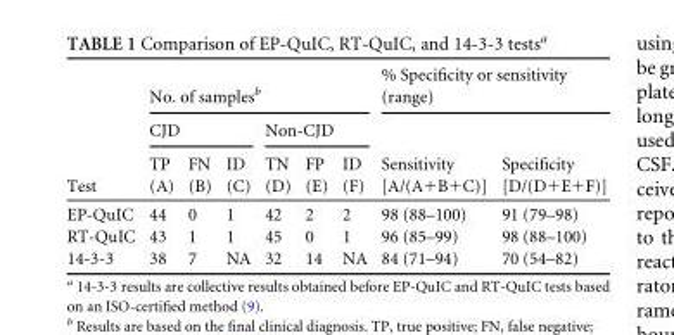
<table><thead><tr><td rowspan="3">Test</td><td colspan="6">No. of samples<sup>b</sup></td><td colspan="2">% Specificity or sensitivity (range)</td></tr><tr><td colspan="3">CJD</td><td colspan="3">Non-CJD</td><td rowspan="2">Sensitivity [A/(A+B+C)]</td><td rowspan="2">Specificity [D/(D+E+F)]</td></tr><tr><td>TP (A)</td><td>FN (B)</td><td>ID (C)</td><td>TN (D)</td><td>FP (E)</td><td>ID (F)</td></tr></thead><tbody><tr><td>EP-QuIC</td><td>44</td><td>0</td><td>1</td><td>42</td><td>2</td><td>2</td><td>98 (88–100)</td><td>91 (79–98)</td></tr><tr><td>RT-QuIC</td><td>43</td><td>1</td><td>1</td><td>45</td><td>0</td><td>1</td><td>96 (85–99)</td><td>98 (88–100)</td></tr><tr><td>14-3-3</td><td>38</td><td>7</td><td>NA</td><td>32</td><td>14</td><td>NA</td><td>84 (71–94)</td><td>70 (54–82)</td></tr></tbody></table>